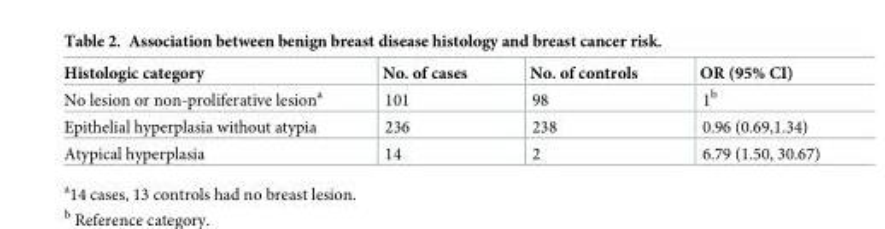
<table><thead><tr><td>Histologic category</td><td>No. of cases</td><td>No. of controls</td><td>OR (95% CI)</td></tr></thead><tbody><tr><td>No lesion or non-proliferative lesion<sup>a</sup></td><td>101</td><td>98</td><td>1<sup>b</sup></td></tr><tr><td>Epithelial hyperplasia without atypia</td><td>236</td><td>238</td><td>0.96 (0.69,1.34)</td></tr><tr><td>Atypical hyperplasia</td><td>14</td><td>2</td><td>6.79 (1.50, 30.67)</td></tr></tbody></table>